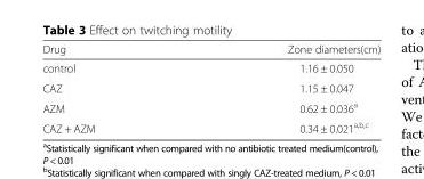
<table><thead><tr><td>Drug</td><td>Zone diameters(cm)</td></tr></thead><tbody><tr><td>control</td><td>1.16 ± 0.050</td></tr><tr><td>CAZ</td><td>1.15 ± 0.047</td></tr><tr><td>AZM</td><td>0.62 ± 0.036<sup>a</sup></td></tr><tr><td>CAZ + AZM</td><td>0.34 ± 0.021<sup>a,b,c</sup></td></tr></tbody></table>